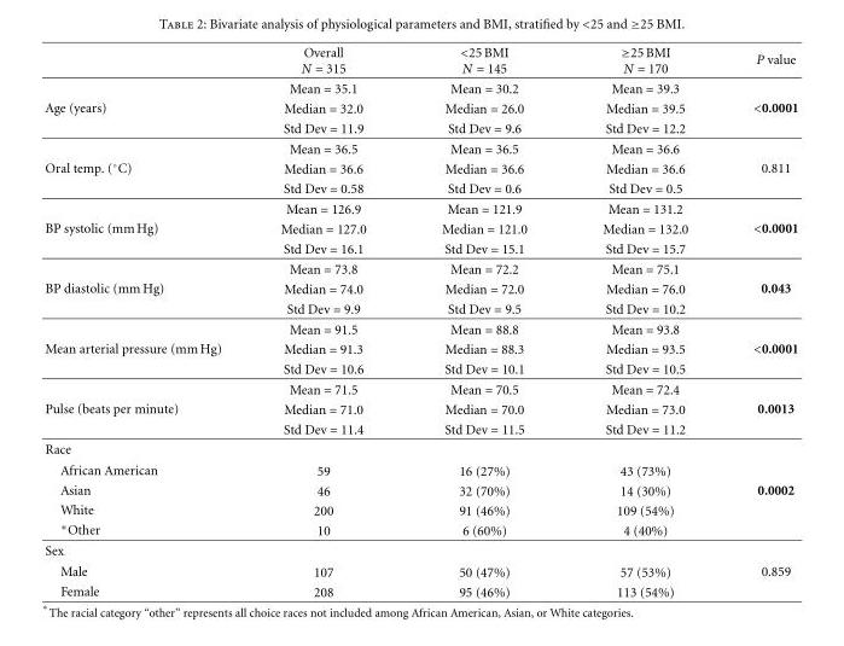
<table><thead><tr><td></td><td>Overall N = 315</td><td>&lt;25 BMI N = 145</td><td>≥25 BMI N = 170</td><td>P value</td></tr></thead><tbody><tr><td></td><td>Mean = 35.1</td><td>Mean = 30.2</td><td>Mean = 39.3</td><td></td></tr><tr><td rowspan="3">Age (years)</td><td>Median = 32.0</td><td>Median = 26.0</td><td>Median = 39.5</td><td>&lt;0.0001</td></tr><tr><td>Std Dev = 11.9</td><td>Std Dev = 9.6</td><td>Std Dev = 12.2</td><td></td></tr><tr><td>Mean = 36.5</td><td>Mean = 36.5</td><td>Mean = 36.6</td><td></td></tr><tr><td rowspan="3">Oral temp. (◦C)</td><td>Median = 36.6</td><td>Median = 36.6</td><td>Median = 36.6</td><td>0.811</td></tr><tr><td>Std Dev = 0.58</td><td>Std Dev = 0.6</td><td>Std Dev = 0.5</td><td></td></tr><tr><td>Mean = 126.9</td><td>Mean = 121.9</td><td>Mean = 131.2</td><td></td></tr><tr><td rowspan="3">BP systolic (mm Hg)</td><td>Median = 127.0</td><td>Median = 121.0</td><td>Median = 132.0</td><td>&lt;0.0001</td></tr><tr><td>Std Dev = 16.1</td><td>Std Dev = 15.1</td><td>Std Dev = 15.7</td><td></td></tr><tr><td>Mean = 73.8</td><td>Mean = 72.2</td><td>Mean = 75.1</td><td></td></tr><tr><td rowspan="3">BP diastolic (mm Hg)</td><td>Median = 74.0</td><td>Median = 72.0</td><td>Median = 76.0</td><td>0.043</td></tr><tr><td>Std Dev = 9.9</td><td>Std Dev = 9.5</td><td>Std Dev = 10.2</td><td></td></tr><tr><td>Mean = 91.5</td><td>Mean = 88.8</td><td>Mean = 93.8</td><td></td></tr><tr><td rowspan="3">Mean arterial pressure (mm Hg)</td><td>Median = 91.3</td><td>Median = 88.3</td><td>Median = 93.5</td><td>&lt;0.0001</td></tr><tr><td>Std Dev = 10.6</td><td>Std Dev = 10.1</td><td>Std Dev = 10.5</td><td></td></tr><tr><td>Mean = 71.5</td><td>Mean = 70.5</td><td>Mean = 72.4</td><td></td></tr><tr><td rowspan="2">Pulse (beats per minute)</td><td>Median = 71.0</td><td>Median = 70.0</td><td>Median = 73.0</td><td>0.0013</td></tr><tr><td>Std Dev = 11.4</td><td>Std Dev = 11.5</td><td>Std Dev = 11.2</td><td></td></tr><tr><td colspan="5">Race</td></tr><tr><td>African American</td><td>59</td><td>16 (27%)</td><td>43 (73%)</td><td></td></tr><tr><td>Asian</td><td>46</td><td>32 (70%)</td><td>14 (30%)</td><td>0.0002</td></tr><tr><td>White</td><td>200</td><td>91 (46%)</td><td>109 (54%)</td><td></td></tr><tr><td>∗Other</td><td>10</td><td>6 (60%)</td><td>4 (40%)</td><td></td></tr><tr><td colspan="5">Sex</td></tr><tr><td>Male</td><td>107</td><td>50 (47%)</td><td>57 (53%)</td><td>0.859</td></tr><tr><td>Female</td><td>208</td><td>95 (46%)</td><td>113 (54%)</td><td></td></tr></tbody></table>